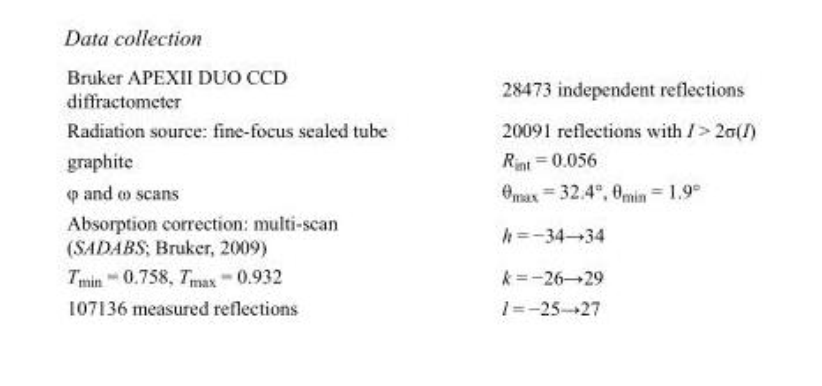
<table><tbody><tr><td>Bruker APEXII DUO CCD diffractometer</td><td>28473 independent reflections</td></tr><tr><td>Radiation source: fine-focus sealed tube</td><td>20091 reflections with I &gt; 2σ(I)</td></tr><tr><td>graphite</td><td>R<sub>int</sub> = 0.056</td></tr><tr><td>φ and ω scans</td><td>θ<sub>max</sub> = 32.4°, θ<sub>min</sub> = 1.9°</td></tr><tr><td>Absorption correction: multi-scan (SADABS; Bruker, 2009)</td><td>h = −34→34</td></tr><tr><td>T<sub>min</sub> = 0.758, T<sub>max</sub> = 0.932</td><td>k = −26→29</td></tr><tr><td>107136 measured reflections</td><td>l = −25→27</td></tr></tbody></table>